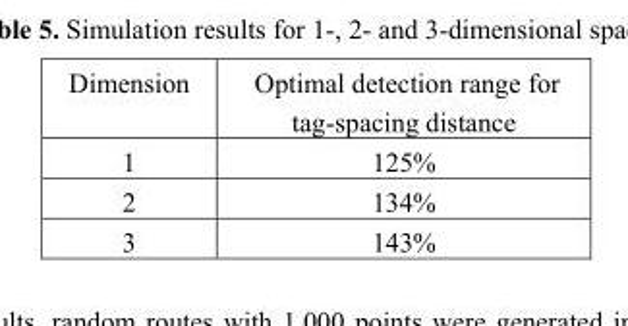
<table><thead><tr><td>Dimension</td><td>Optimal detection range for tag-spacing distance</td></tr></thead><tbody><tr><td>1</td><td>125%</td></tr><tr><td>2</td><td>134%</td></tr><tr><td>3</td><td>143%</td></tr></tbody></table>